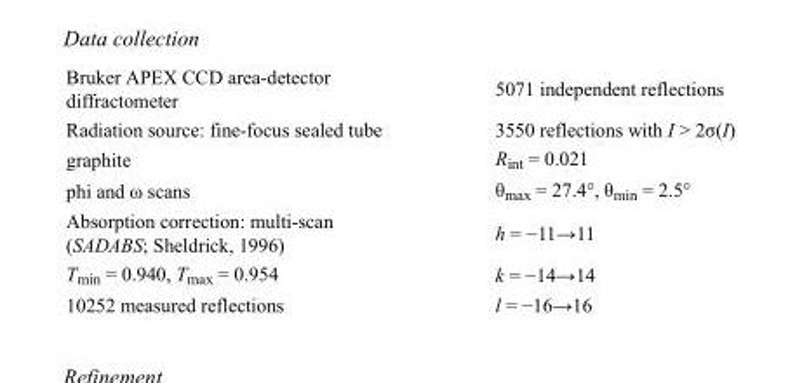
<table><tbody><tr><td>Bruker APEX CCD area-detector diffractometer</td><td>5071 independent reflections</td></tr><tr><td>Radiation source: fine-focus sealed tube</td><td>3550 reflections with I &gt; 2σ(I)</td></tr><tr><td>graphite</td><td>R<sub>int</sub> = 0.021</td></tr><tr><td>phi and ω scans</td><td>θ<sub>max</sub> = 27.4°, θ<sub>min</sub> = 2.5°</td></tr><tr><td>Absorption correction: multi-scan (SADABS; Sheldrick, 1996)</td><td>h = −11→11</td></tr><tr><td>T<sub>min</sub> = 0.940, T<sub>max</sub> = 0.954</td><td>k = −14→14</td></tr><tr><td>10252 measured reflections</td><td>l = −16→16</td></tr></tbody></table>